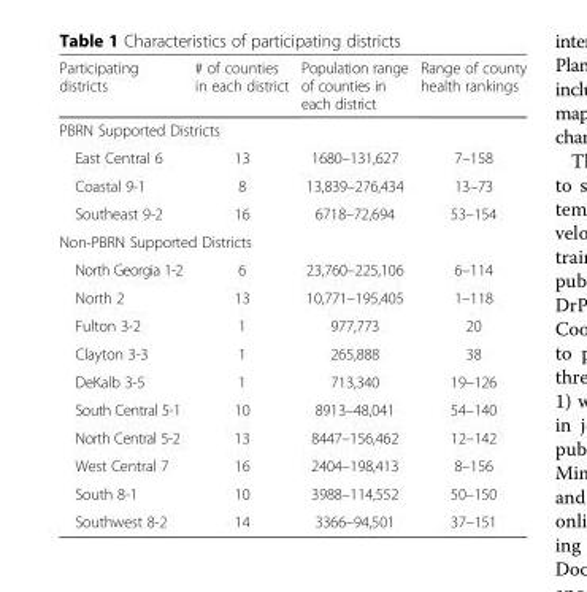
<table><thead><tr><td>Participating districts</td><td># of counties in each district</td><td>Population range of counties in each district</td><td>Range of county health rankings</td></tr></thead><tbody><tr><td colspan="4">PBRN Supported Districts</td></tr><tr><td>East Central 6</td><td>13</td><td>1680–131,627</td><td>7–158</td></tr><tr><td>Coastal 9-1</td><td>8</td><td>13,839–276,434</td><td>13–73</td></tr><tr><td>Southeast 9-2</td><td>16</td><td>6718–72,694</td><td>53–154</td></tr><tr><td colspan="4">Non-PBRN Supported Districts</td></tr><tr><td>North Georgia 1-2</td><td>6</td><td>23,760–225,106</td><td>6–114</td></tr><tr><td>North 2</td><td>13</td><td>10,771–195,405</td><td>1–118</td></tr><tr><td>Fulton 3-2</td><td>1</td><td>977,773</td><td>20</td></tr><tr><td>Clayton 3-3</td><td>1</td><td>265,888</td><td>38</td></tr><tr><td>DeKalb 3-5</td><td>1</td><td>713,340</td><td>19–126</td></tr><tr><td>South Central 5-1</td><td>10</td><td>8913–48,041</td><td>54–140</td></tr><tr><td>North Central 5-2</td><td>13</td><td>8447–156,462</td><td>12–142</td></tr><tr><td>West Central 7</td><td>16</td><td>2404–198,413</td><td>8–156</td></tr><tr><td>South 8-1</td><td>10</td><td>3988–114,552</td><td>50–150</td></tr><tr><td>Southwest 8-2</td><td>14</td><td>3366–94,501</td><td>37–151</td></tr></tbody></table>